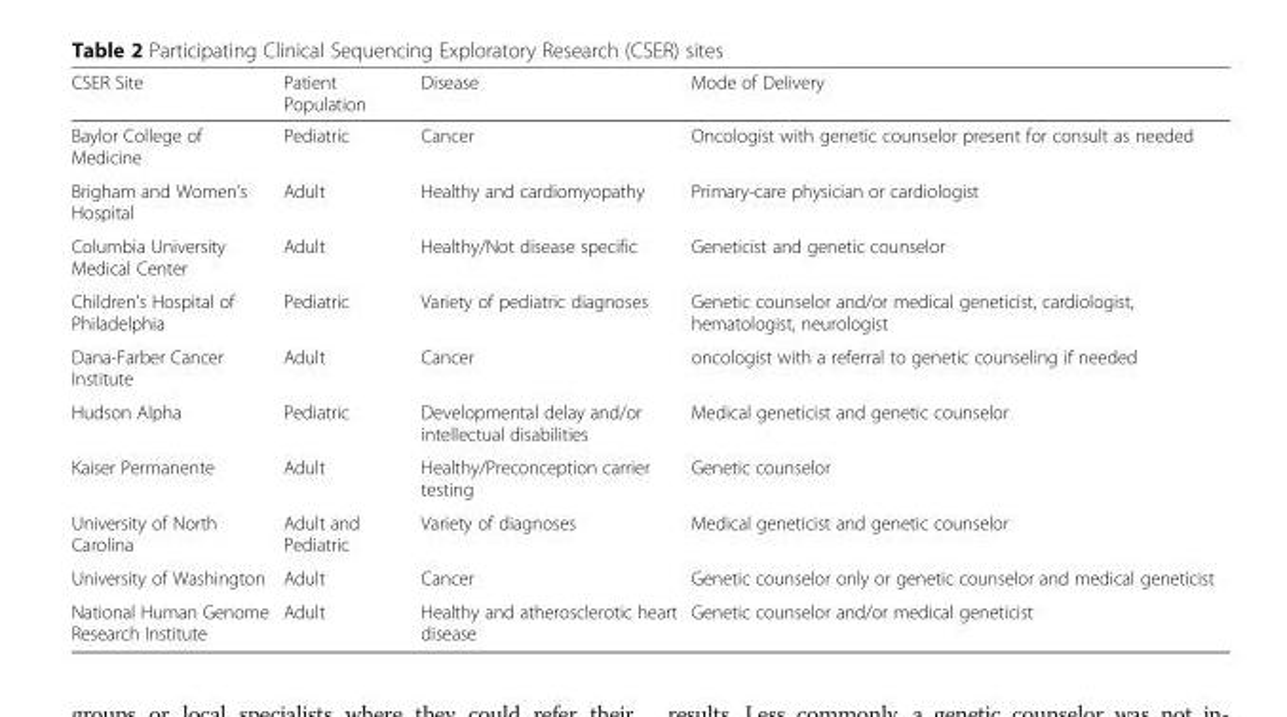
<table><thead><tr><td>CSER Site</td><td>Patient Population</td><td>Disease</td><td>Mode of Delivery</td></tr></thead><tbody><tr><td>Baylor College of Medicine</td><td>Pediatric</td><td>Cancer</td><td>Oncologist with genetic counselor present for consult as needed</td></tr><tr><td>Brigham and Women’s Hospital</td><td>Adult</td><td>Healthy and cardiomyopathy</td><td>Primary-care physician or cardiologist</td></tr><tr><td>Columbia University Medical Center</td><td>Adult</td><td>Healthy/Not disease specific</td><td>Geneticist and genetic counselor</td></tr><tr><td>Children’s Hospital of Philadelphia</td><td>Pediatric</td><td>Variety of pediatric diagnoses</td><td>Genetic counselor and/or medical geneticist, cardiologist, hematologist, neurologist</td></tr><tr><td>Dana-Farber Cancer Institute</td><td>Adult</td><td>Cancer</td><td>oncologist with a referral to genetic counseling if needed</td></tr><tr><td>Hudson Alpha</td><td>Pediatric</td><td>Developmental delay and/or intellectual disabilities</td><td>Medical geneticist and genetic counselor</td></tr><tr><td>Kaiser Permanente</td><td>Adult</td><td>Healthy/Preconception carrier testing</td><td>Genetic counselor</td></tr><tr><td>University of North Carolina</td><td>Adult and Pediatric</td><td>Variety of diagnoses</td><td>Medical geneticist and genetic counselor</td></tr><tr><td>University of Washington</td><td>Adult</td><td>Cancer</td><td>Genetic counselor only or genetic counselor and medical geneticist</td></tr><tr><td>National Human Genome Research Institute</td><td>Adult</td><td>Healthy and atherosclerotic heart disease</td><td>Genetic counselor and/or medical geneticist</td></tr></tbody></table>